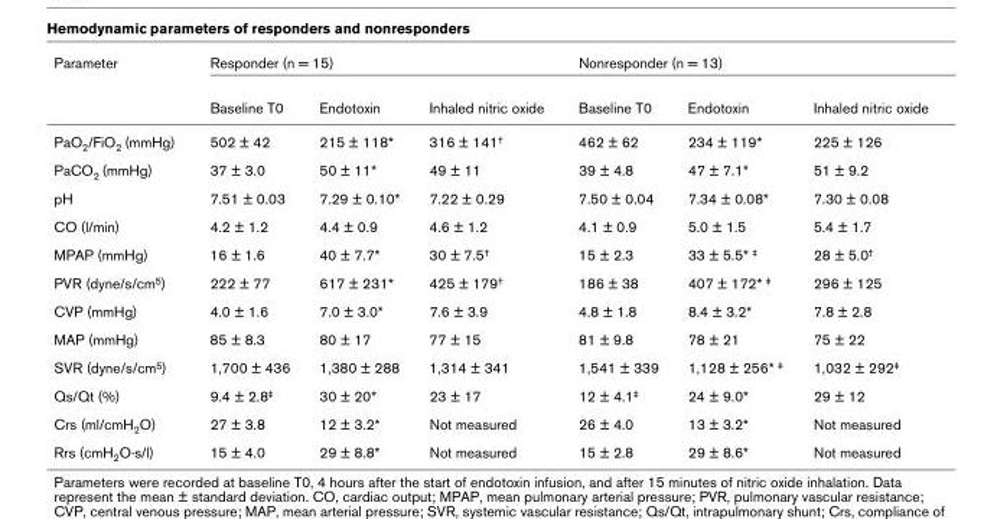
<table><thead><tr><td rowspan="2">Parameter</td><td colspan="3">Responder (n = 15)</td><td colspan="3">Nonresponder (n = 13)</td></tr><tr><td>Baseline T0</td><td>Endotoxin</td><td>Inhaled nitric oxide</td><td>Baseline T0</td><td>Endotoxin</td><td>Inhaled nitric oxide</td></tr></thead><tbody><tr><td>PaO<sub>2</sub>/FiO<sub>2</sub> (mmHg)</td><td>502 ± 42</td><td>215 ± 118*</td><td>316 ± 141<sup>†</sup></td><td>462 ± 62</td><td>234 ± 119*</td><td>225 ± 126</td></tr><tr><td>PaCO<sub>2</sub> (mmHg)</td><td>37 ± 3.0</td><td>50 ± 11*</td><td>49 ± 11</td><td>39 ± 4.8</td><td>47 ± 7.1*</td><td>51 ± 9.2</td></tr><tr><td>pH</td><td>7.51 ± 0.03</td><td>7.29 ± 0.10*</td><td>7.22 ± 0.29</td><td>7.50 ± 0.04</td><td>7.34 ± 0.08*</td><td>7.30 ± 0.08</td></tr><tr><td>CO (l/min)</td><td>4.2 ± 1.2</td><td>4.4 ± 0.9</td><td>4.6 ± 1.2</td><td>4.1 ± 0.9</td><td>5.0 ± 1.5</td><td>5.4 ± 1.7</td></tr><tr><td>MPAP (mmHg)</td><td>16 ± 1.6</td><td>40 ± 7.7*</td><td>30 ± 7.5<sup>†</sup></td><td>15 ± 2.3</td><td>33 ± 5.5* <sup>‡</sup></td><td>28 ± 5.0<sup>†</sup></td></tr><tr><td>PVR (dyne/s/cm<sup>5</sup>)</td><td>222 ± 77</td><td>617 ± 231*</td><td>425 ± 179<sup>†</sup></td><td>186 ± 38</td><td>407 ± 172* <sup>‡</sup></td><td>296 ± 125</td></tr><tr><td>CVP (mmHg)</td><td>4.0 ± 1.6</td><td>7.0 ± 3.0*</td><td>7.6 ± 3.9</td><td>4.8 ± 1.8</td><td>8.4 ± 3.2*</td><td>7.8 ± 2.8</td></tr><tr><td>MAP (mmHg)</td><td>85 ± 8.3</td><td>80 ± 17</td><td>77 ± 15</td><td>81 ± 9.8</td><td>78 ± 21</td><td>75 ± 22</td></tr><tr><td>SVR (dyne/s/cm<sup>5</sup>)</td><td>1,700 ± 436</td><td>1,380 ± 288</td><td>1,314 ± 341</td><td>1,541 ± 339</td><td>1,128 ± 256* <sup>‡</sup></td><td>1,032 ± 292<sup>‡</sup></td></tr><tr><td>Qs/Qt (%)</td><td>9.4 ± 2.8<sup>‡</sup></td><td>30 ± 20*</td><td>23 ± 17</td><td>12 ± 4.1<sup>‡</sup></td><td>24 ± 9.0*</td><td>29 ± 12</td></tr><tr><td>Crs (ml/cmH<sub>2</sub>O)</td><td>27 ± 3.8</td><td>12 ± 3.2*</td><td>Not measured</td><td>26 ± 4.0</td><td>13 ± 3.2*</td><td>Not measured</td></tr><tr><td>Rrs (cmH<sub>2</sub>O·s/l)</td><td>15 ± 4.0</td><td>29 ± 8.8*</td><td>Not measured</td><td>15 ± 2.8</td><td>29 ± 8.6*</td><td>Not measured</td></tr></tbody></table>